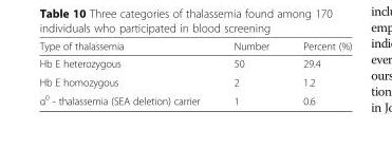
<table><thead><tr><td>Type of thalassemia</td><td>Number</td><td>Percent (%)</td></tr></thead><tbody><tr><td>Hb E heterozygous</td><td>50</td><td>29.4</td></tr><tr><td>Hb E homozygous</td><td>2</td><td>1.2</td></tr><tr><td>α<sup>0</sup> - thalassemia (SEA deletion) carrier</td><td>1</td><td>0.6</td></tr></tbody></table>